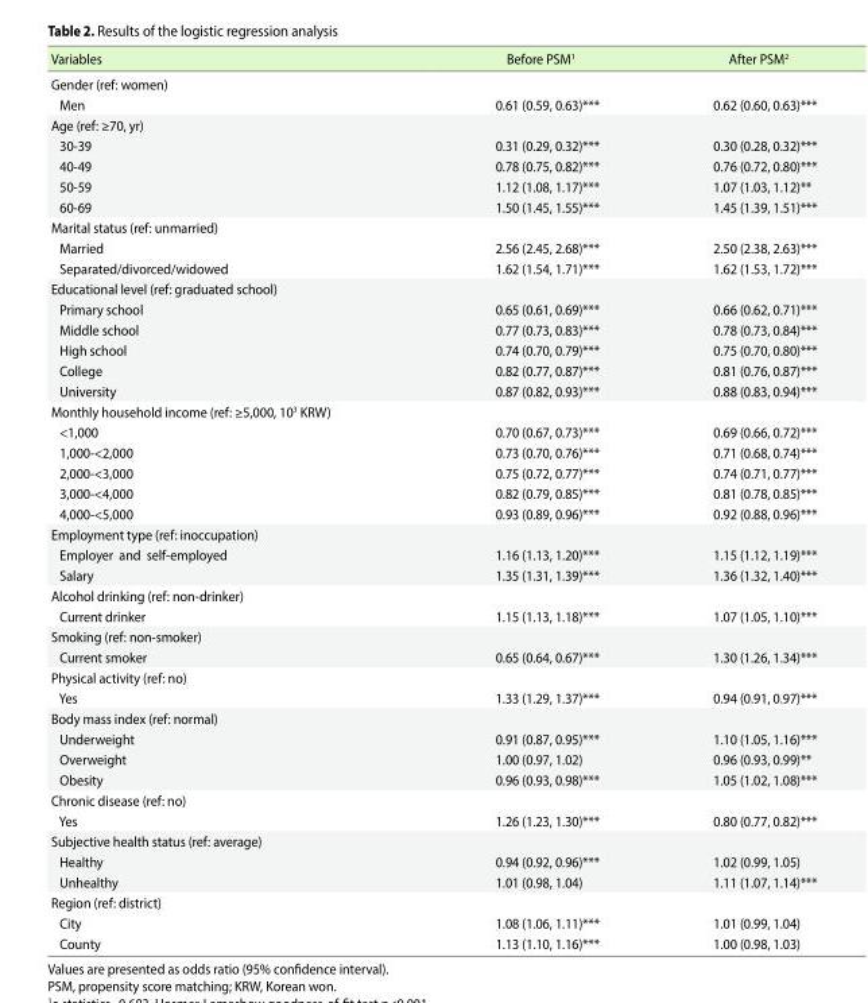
<table><thead><tr><td>Variables</td><td>Before PSM<sup>1</sup></td><td>After PSM<sup>2</sup></td></tr></thead><tbody><tr><td colspan="3">Gender (ref: women)</td></tr><tr><td>Men</td><td>0.61 (0.59, 0.63)***</td><td>0.62 (0.60, 0.63)***</td></tr><tr><td colspan="3">Age (ref: ≥70, yr)</td></tr><tr><td>30-39</td><td>0.31 (0.29, 0.32)***</td><td>0.30 (0.28, 0.32)***</td></tr><tr><td>40-49</td><td>0.78 (0.75, 0.82)***</td><td>0.76 (0.72, 0.80)***</td></tr><tr><td>50-59</td><td>1.12 (1.08, 1.17)***</td><td>1.07 (1.03, 1.12)**</td></tr><tr><td>60-69</td><td>1.50 (1.45, 1.55)***</td><td>1.45 (1.39, 1.51)***</td></tr><tr><td colspan="3">Marital status (ref: unmarried)</td></tr><tr><td>Married</td><td>2.56 (2.45, 2.68)***</td><td>2.50 (2.38, 2.63)***</td></tr><tr><td>Separated/divorced/widowed</td><td>1.62 (1.54, 1.71)***</td><td>1.62 (1.53, 1.72)***</td></tr><tr><td colspan="3">Educational level (ref: graduated school)</td></tr><tr><td>Primary school</td><td>0.65 (0.61, 0.69)***</td><td>0.66 (0.62, 0.71)***</td></tr><tr><td>Middle school</td><td>0.77 (0.73, 0.83)***</td><td>0.78 (0.73, 0.84)***</td></tr><tr><td>High school</td><td>0.74 (0.70, 0.79)***</td><td>0.75 (0.70, 0.80)***</td></tr><tr><td>College</td><td>0.82 (0.77, 0.87)***</td><td>0.81 (0.76, 0.87)***</td></tr><tr><td>University</td><td>0.87 (0.82, 0.93)***</td><td>0.88 (0.83, 0.94)***</td></tr><tr><td colspan="3">Monthly household income (ref: ≥5,000, 10<sup>3</sup> KRW)</td></tr><tr><td>&lt;1,000</td><td>0.70 (0.67, 0.73)***</td><td>0.69 (0.66, 0.72)***</td></tr><tr><td>1,000-&lt;2,000</td><td>0.73 (0.70, 0.76)***</td><td>0.71 (0.68, 0.74)***</td></tr><tr><td>2,000-&lt;3,000</td><td>0.75 (0.72, 0.77)***</td><td>0.74 (0.71, 0.77)***</td></tr><tr><td>3,000-&lt;4,000</td><td>0.82 (0.79, 0.85)***</td><td>0.81 (0.78, 0.85)***</td></tr><tr><td>4,000-&lt;5,000</td><td>0.93 (0.89, 0.96)***</td><td>0.92 (0.88, 0.96)***</td></tr><tr><td colspan="3">Employment type (ref: inoccupation)</td></tr><tr><td>Employer and self-employed</td><td>1.16 (1.13, 1.20)***</td><td>1.15 (1.12, 1.19)***</td></tr><tr><td>Salary</td><td>1.35 (1.31, 1.39)***</td><td>1.36 (1.32, 1.40)***</td></tr><tr><td colspan="3">Alcohol drinking (ref: non-drinker)</td></tr><tr><td>Current drinker</td><td>1.15 (1.13, 1.18)***</td><td>1.07 (1.05, 1.10)***</td></tr><tr><td colspan="3">Smoking (ref: non-smoker)</td></tr><tr><td>Current smoker</td><td>0.65 (0.64, 0.67)***</td><td>1.30 (1.26, 1.34)***</td></tr><tr><td colspan="3">Physical activity (ref: no)</td></tr><tr><td>Yes</td><td>1.33 (1.29, 1.37)***</td><td>0.94 (0.91, 0.97)***</td></tr><tr><td colspan="3">Body mass index (ref: normal)</td></tr><tr><td>Underweight</td><td>0.91 (0.87, 0.95)***</td><td>1.10 (1.05, 1.16)***</td></tr><tr><td>Overweight</td><td>1.00 (0.97, 1.02)</td><td>0.96 (0.93, 0.99)**</td></tr><tr><td>Obesity</td><td>0.96 (0.93, 0.98)***</td><td>1.05 (1.02, 1.08)***</td></tr><tr><td colspan="3">Chronic disease (ref: no)</td></tr><tr><td>Yes</td><td>1.26 (1.23, 1.30)***</td><td>0.80 (0.77, 0.82)***</td></tr><tr><td colspan="3">Subjective health status (ref: average)</td></tr><tr><td>Healthy</td><td>0.94 (0.92, 0.96)***</td><td>1.02 (0.99, 1.05)</td></tr><tr><td>Unhealthy</td><td>1.01 (0.98, 1.04)</td><td>1.11 (1.07, 1.14)***</td></tr><tr><td colspan="3">Region (ref: district)</td></tr><tr><td>City</td><td>1.08 (1.06, 1.11)***</td><td>1.01 (0.99, 1.04)</td></tr><tr><td>County</td><td>1.13 (1.10, 1.16)***</td><td>1.00 (0.98, 1.03)</td></tr></tbody></table>